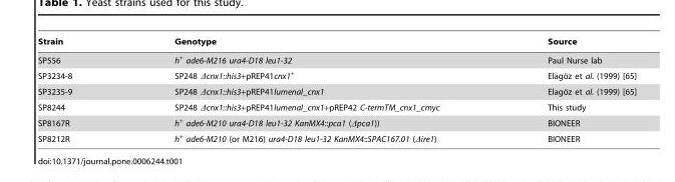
<table><thead><tr><td>Strain</td><td>Genotype</td><td>Source</td></tr></thead><tbody><tr><td>SP556</td><td>h<sup>+</sup> ade6-M216 ura4-D18 leu1-32</td><td>Paul Nurse lab</td></tr><tr><td>SP3234-8</td><td>SP248 Δcnx1::his3+pREP41cnx1<sup>+</sup></td><td>Elago¨z et al. (1999) [65]</td></tr><tr><td>SP3235-9</td><td>SP248 Δcnx1::his3+pREP41lumenal_cnx1</td><td>Elago¨z et al. (1999) [65]</td></tr><tr><td>SP8244</td><td>SP248 Δcnx1::his3+pREP41lumenal_cnx1+pREP42 C-termTM_cnx1_cmyc</td><td>This study</td></tr><tr><td>SP8167R</td><td>h<sup>+</sup> ade6-M210 ura4-D18 leu1-32 KanMX4::pca1 (Δpca1))</td><td>BIONEER</td></tr><tr><td>SP8212R</td><td>h<sup>+</sup> ade6-M210 (or M216) ura4-D18 leu1-32 KanMX4::SPAC167.01 (Δire1)</td><td>BIONEER</td></tr></tbody></table>